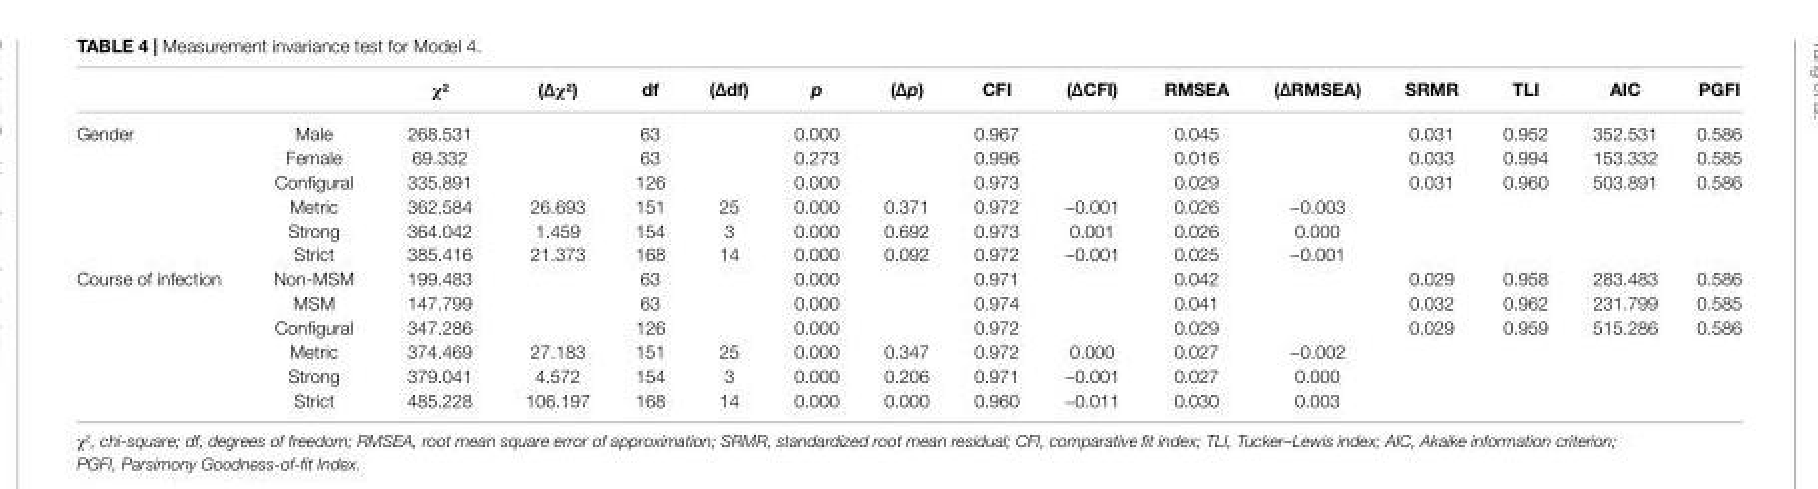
<table><thead><tr><td></td><td></td><td>χ<sup>2</sup></td><td>(Δχ<sup>2</sup>)</td><td>df</td><td>(Δdf)</td><td>p</td><td>(Δp)</td><td>CFI</td><td>(ΔCFI)</td><td>RMSEA</td><td>(ΔRMSEA)</td><td>SRMR</td><td>TLI</td><td>AIC</td><td>PGFI</td></tr></thead><tbody><tr><td rowspan="6">Gender</td><td>Male</td><td>268.531</td><td></td><td>63</td><td></td><td>0.000</td><td></td><td>0.967</td><td></td><td>0.045</td><td></td><td>0.031</td><td>0.952</td><td>352.531</td><td>0.586</td></tr><tr><td>Female</td><td>69.332</td><td></td><td>63</td><td></td><td>0.273</td><td></td><td>0.996</td><td></td><td>0.016</td><td></td><td>0.033</td><td>0.994</td><td>153.332</td><td>0.585</td></tr><tr><td>Configural</td><td>335.891</td><td></td><td>126</td><td></td><td>0.000</td><td></td><td>0.973</td><td></td><td>0.029</td><td></td><td>0.031</td><td>0.960</td><td>503.891</td><td>0.586</td></tr><tr><td>Metric</td><td>362.584</td><td>26.693</td><td>151</td><td>25</td><td>0.000</td><td>0.371</td><td>0.972</td><td>−0.001</td><td>0.026</td><td>−0.003</td><td></td><td></td><td></td><td></td></tr><tr><td>Strong</td><td>364.042</td><td>1.459</td><td>154</td><td>3</td><td>0.000</td><td>0.692</td><td>0.973</td><td>0.001</td><td>0.026</td><td>0.000</td><td></td><td></td><td></td><td></td></tr><tr><td>Strict</td><td>385.416</td><td>21.373</td><td>168</td><td>14</td><td>0.000</td><td>0.092</td><td>0.972</td><td>−0.001</td><td>0.025</td><td>−0.001</td><td></td><td></td><td></td><td></td></tr><tr><td rowspan="6">Course of infection</td><td>Non-MSM</td><td>199.483</td><td></td><td>63</td><td></td><td>0.000</td><td></td><td>0.971</td><td></td><td>0.042</td><td></td><td>0.029</td><td>0.958</td><td>283.483</td><td>0.586</td></tr><tr><td>MSM</td><td>147.799</td><td></td><td>63</td><td></td><td>0.000</td><td></td><td>0.974</td><td></td><td>0.041</td><td></td><td>0.032</td><td>0.962</td><td>231.799</td><td>0.585</td></tr><tr><td>Configural</td><td>347.286</td><td></td><td>126</td><td></td><td>0.000</td><td></td><td>0.972</td><td></td><td>0.029</td><td></td><td>0.029</td><td>0.959</td><td>515.286</td><td>0.586</td></tr><tr><td>Metric</td><td>374.469</td><td>27.183</td><td>151</td><td>25</td><td>0.000</td><td>0.347</td><td>0.972</td><td>0.000</td><td>0.027</td><td>−0.002</td><td></td><td></td><td></td><td></td></tr><tr><td>Strong</td><td>379.041</td><td>4.572</td><td>154</td><td>3</td><td>0.000</td><td>0.206</td><td>0.971</td><td>−0.001</td><td>0.027</td><td>0.000</td><td></td><td></td><td></td><td></td></tr><tr><td>Strict</td><td>485.228</td><td>106.197</td><td>168</td><td>14</td><td>0.000</td><td>0.000</td><td>0.960</td><td>−0.011</td><td>0.030</td><td>0.003</td><td></td><td></td><td></td><td></td></tr></tbody></table>